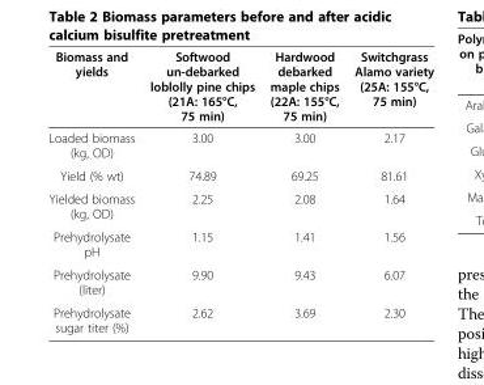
<table><thead><tr><td>Biomass and yields</td><td>Softwood un-debarked loblolly pine chips (21A: 165°C, 75 min)</td><td>Hardwood debarked maple chips (22A: 155°C, 75 min)</td><td>Switchgrass Alamo variety (25A: 155°C, 75 min)</td></tr></thead><tbody><tr><td>Loaded biomass (kg, OD)</td><td>3.00</td><td>3.00</td><td>2.17</td></tr><tr><td>Yield (% wt)</td><td>74.89</td><td>69.25</td><td>81.61</td></tr><tr><td>Yielded biomass (kg, OD)</td><td>2.25</td><td>2.08</td><td>1.64</td></tr><tr><td>Prehydrolysate pH</td><td>1.15</td><td>1.41</td><td>1.56</td></tr><tr><td>Prehydrolysate (liter)</td><td>9.90</td><td>9.43</td><td>6.07</td></tr><tr><td>Prehydrolysate sugar titer (%)</td><td>2.62</td><td>3.69</td><td>2.30</td></tr></tbody></table>